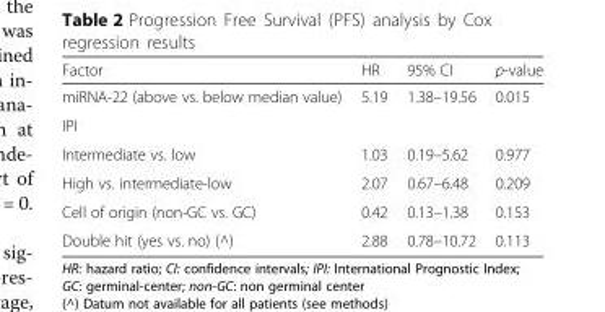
<table><thead><tr><td>Factor</td><td>HR</td><td>95% CI</td><td>p-value</td></tr></thead><tbody><tr><td>miRNA-22 (above vs. below median value)</td><td>5.19</td><td>1.38–19.56</td><td>0.015</td></tr><tr><td colspan="4">IPI</td></tr><tr><td>Intermediate vs. low</td><td>1.03</td><td>0.19–5.62</td><td>0.977</td></tr><tr><td>High vs. intermediate-low</td><td>2.07</td><td>0.67–6.48</td><td>0.209</td></tr><tr><td>Cell of origin (non-GC vs. GC)</td><td>0.42</td><td>0.13–1.38</td><td>0.153</td></tr><tr><td>Double hit (yes vs. no) (^)</td><td>2.88</td><td>0.78–10.72</td><td>0.113</td></tr></tbody></table>